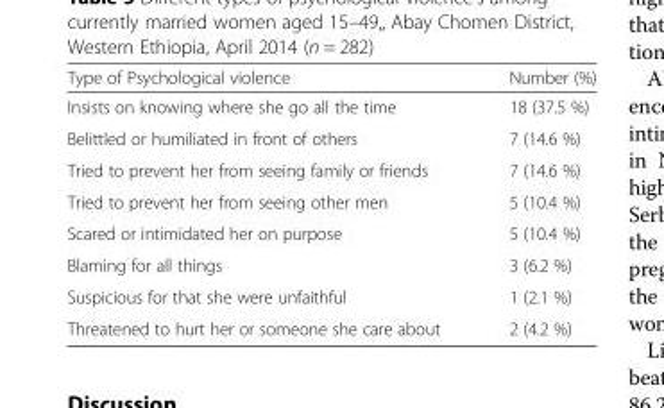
<table><thead><tr><td>Type of Psychological violence</td><td>Number (%)</td></tr></thead><tbody><tr><td>Insists on knowing where she go all the time</td><td>18 (37.5 %)</td></tr><tr><td>Belittled or humiliated in front of others</td><td>7 (14.6 %)</td></tr><tr><td>Tried to prevent her from seeing family or friends</td><td>7 (14.6 %)</td></tr><tr><td>Tried to prevent her from seeing other men</td><td>5 (10.4 %)</td></tr><tr><td>Scared or intimidated her on purpose</td><td>5 (10.4 %)</td></tr><tr><td>Blaming for all things</td><td>3 (6.2 %)</td></tr><tr><td>Suspicious for that she were unfaithful</td><td>1 (2.1 %)</td></tr><tr><td>Threatened to hurt her or someone she care about</td><td>2 (4.2 %)</td></tr></tbody></table>